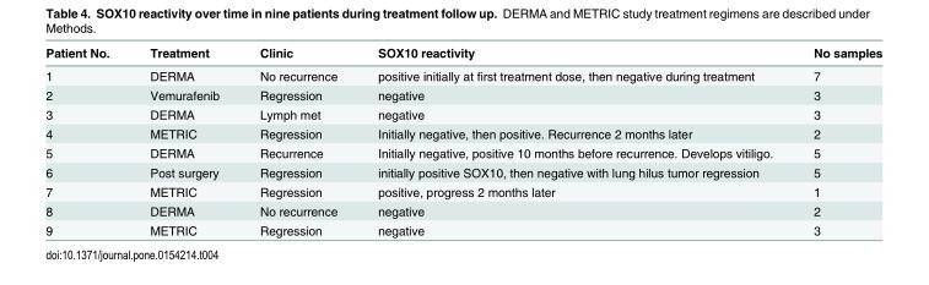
<table><thead><tr><td>Patient No.</td><td>Treatment</td><td>Clinic</td><td>SOX10 reactivity</td><td>No samples</td></tr></thead><tbody><tr><td>1</td><td>DERMA</td><td>No recurrence</td><td>positive initially at first treatment dose, then negative during treatment</td><td>7</td></tr><tr><td>2</td><td>Vemurafenib</td><td>Regression</td><td>negative</td><td>3</td></tr><tr><td>3</td><td>DERMA</td><td>Lymph met</td><td>negative</td><td>3</td></tr><tr><td>4</td><td>METRIC</td><td>Regression</td><td>Initially negative, then positive. Recurrence 2 months later</td><td>2</td></tr><tr><td>5</td><td>DERMA</td><td>Recurrence</td><td>Initially negative, positive 10 months before recurrence. Develops vitiligo.</td><td>5</td></tr><tr><td>6</td><td>Post surgery</td><td>Regression</td><td>initially positive SOX10, then negative with lung hilus tumor regression</td><td>5</td></tr><tr><td>7</td><td>METRIC</td><td>Regression</td><td>positive, progress 2 months later</td><td>1</td></tr><tr><td>8</td><td>DERMA</td><td>No recurrence</td><td>negative</td><td>2</td></tr><tr><td>9</td><td>METRIC</td><td>Regression</td><td>negative</td><td>3</td></tr></tbody></table>